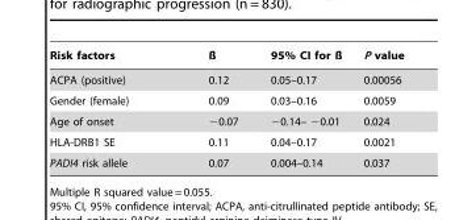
<table><thead><tr><td>Risk factors</td><td>ß</td><td>95% CI for ß</td><td>P value</td></tr></thead><tbody><tr><td>ACPA (positive)</td><td>0.12</td><td>0.05–0.17</td><td>0.00056</td></tr><tr><td>Gender (female)</td><td>0.09</td><td>0.03–0.16</td><td>0.0059</td></tr><tr><td>Age of onset</td><td>−0.07</td><td>−0.14– −0.01</td><td>0.024</td></tr><tr><td>HLA-DRB1 SE</td><td>0.11</td><td>0.04–0.17</td><td>0.0021</td></tr><tr><td>PADI4 risk allele</td><td>0.07</td><td>0.004–0.14</td><td>0.037</td></tr></tbody></table>